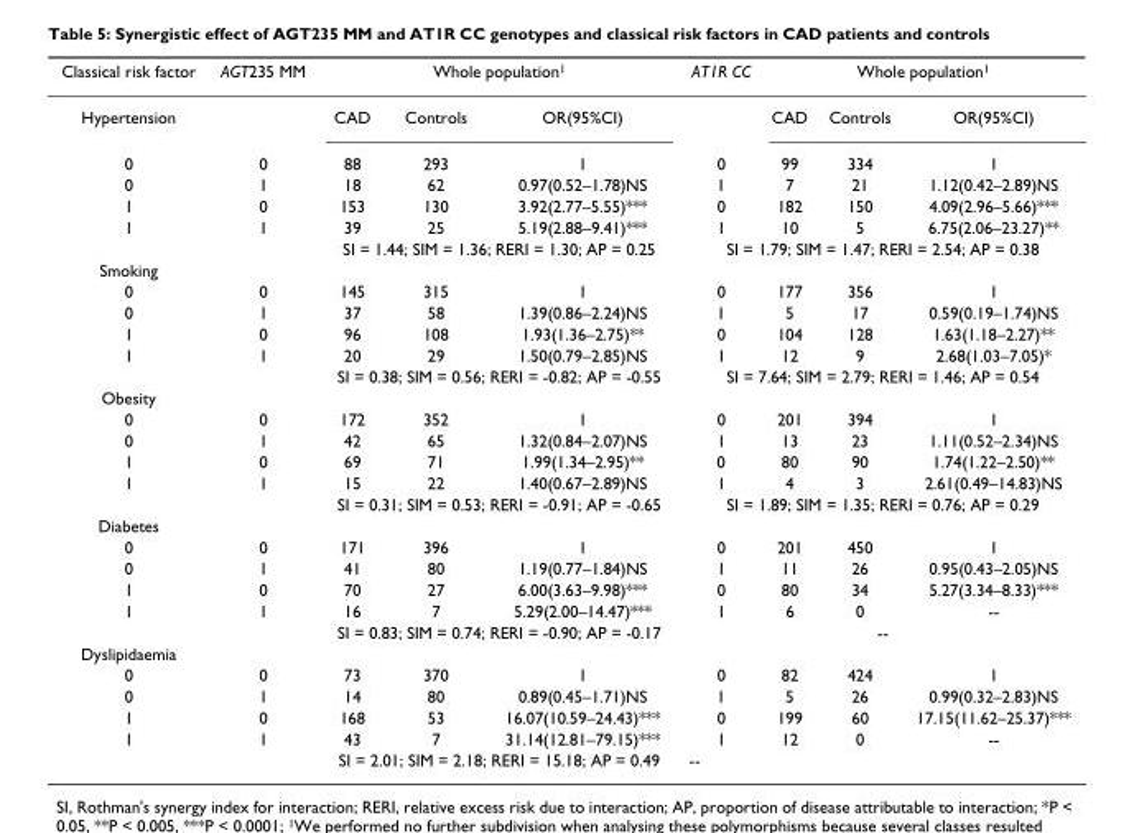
<table><thead><tr><td rowspan="2">Classical risk factor Hypertension</td><td rowspan="2">AGT235 MM</td><td colspan="3">Whole population<sup>1</sup></td><td rowspan="2">AT1R CC</td><td colspan="3">Whole population<sup>1</sup></td></tr><tr><td>CAD</td><td>Controls</td><td>OR(95%CI)</td><td>CAD</td><td>Controls</td><td>OR(95%CI)</td></tr></thead><tbody><tr><td>0</td><td>0</td><td>88</td><td>293</td><td>1</td><td>0</td><td>99</td><td>334</td><td>1</td></tr><tr><td>0</td><td>1</td><td>18</td><td>62</td><td>0.97(0.52–1.78)NS</td><td>1</td><td>7</td><td>21</td><td>1.12(0.42–2.89)NS</td></tr><tr><td>1</td><td>0</td><td>153</td><td>130</td><td>3.92(2.77–5.55)***</td><td>0</td><td>182</td><td>150</td><td>4.09(2.96–5.66)***</td></tr><tr><td rowspan="2">1</td><td>1</td><td>39</td><td>25</td><td>5.19(2.88–9.41)***</td><td>1</td><td>10</td><td>5</td><td>6.75(2.06–23.27)**</td></tr><tr><td></td><td colspan="3">SI = 1.44; SIM = 1.36; RERI = 1.30; AP = 0.25</td><td colspan="4">SI = 1.79; SIM = 1.47; RERI = 2.54; AP = 0.38</td></tr><tr><td colspan="9">Smoking</td></tr><tr><td>0</td><td>0</td><td>145</td><td>315</td><td>1</td><td>0</td><td>177</td><td>356</td><td>1</td></tr><tr><td>0</td><td>1</td><td>37</td><td>58</td><td>1.39(0.86–2.24)NS</td><td>1</td><td>5</td><td>17</td><td>0.59(0.19–1.74)NS</td></tr><tr><td>1</td><td>0</td><td>96</td><td>108</td><td>1.93(1.36–2.75)**</td><td>0</td><td>104</td><td>128</td><td>1.63(1.18–2.27)**</td></tr><tr><td rowspan="2">1</td><td>1</td><td>20</td><td>29</td><td>1.50(0.79–2.85)NS</td><td>1</td><td>12</td><td>9</td><td>2.68(1.03–7.05)*</td></tr><tr><td></td><td colspan="3">SI = 0.38; SIM = 0.56; RERI = -0.82; AP = -0.55</td><td colspan="4">SI = 7.64; SIM = 2.79; RERI = 1.46; AP = 0.54</td></tr><tr><td colspan="9">Obesity</td></tr><tr><td>0</td><td>0</td><td>172</td><td>352</td><td>1</td><td>0</td><td>201</td><td>394</td><td>1</td></tr><tr><td>0</td><td>1</td><td>42</td><td>65</td><td>1.32(0.84–2.07)NS</td><td>1</td><td>13</td><td>23</td><td>1.11(0.52–2.34)NS</td></tr><tr><td>1</td><td>0</td><td>69</td><td>71</td><td>1.99(1.34–2.95)**</td><td>0</td><td>80</td><td>90</td><td>1.74(1.22–2.50)**</td></tr><tr><td rowspan="2">1</td><td>1</td><td>15</td><td>22</td><td>1.40(0.67–2.89)NS</td><td>1</td><td>4</td><td>3</td><td>2.61(0.49–14.83)NS</td></tr><tr><td></td><td colspan="3">SI = 0.31; SIM = 0.53; RERI = -0.91; AP = -0.65</td><td colspan="4">SI = 1.89; SIM = 1.35; RERI = 0.76; AP = 0.29</td></tr><tr><td colspan="9">Diabetes</td></tr><tr><td>0</td><td>0</td><td>171</td><td>396</td><td>1</td><td>0</td><td>201</td><td>450</td><td>1</td></tr><tr><td>0</td><td>1</td><td>41</td><td>80</td><td>1.19(0.77–1.84)NS</td><td>1</td><td>11</td><td>26</td><td>0.95(0.43–2.05)NS</td></tr><tr><td>1</td><td>0</td><td>70</td><td>27</td><td>6.00(3.63–9.98)***</td><td>0</td><td>80</td><td>34</td><td>5.27(3.34–8.33)***</td></tr><tr><td rowspan="2">1</td><td>1</td><td>16</td><td>7</td><td>5.29(2.00–14.47)***</td><td>1</td><td>6</td><td>0</td><td>--</td></tr><tr><td></td><td colspan="3">SI = 0.83; SIM = 0.74; RERI = -0.90; AP = -0.17</td><td colspan="4">--</td></tr><tr><td colspan="9">Dyslipidaemia</td></tr><tr><td>0</td><td>0</td><td>73</td><td>370</td><td>1</td><td>0</td><td>82</td><td>424</td><td>1</td></tr><tr><td>0</td><td>1</td><td>14</td><td>80</td><td>0.89(0.45–1.71)NS</td><td>1</td><td>5</td><td>26</td><td>0.99(0.32–2.83)NS</td></tr><tr><td>1</td><td>0</td><td>168</td><td>53</td><td>16.07(10.59–24.43)***</td><td>0</td><td>199</td><td>60</td><td>17.15(11.62–25.37)***</td></tr><tr><td rowspan="2">1</td><td>1</td><td>43</td><td>7</td><td>31.14(12.81–79.15)***</td><td>1</td><td>12</td><td>0</td><td>--</td></tr><tr><td></td><td colspan="3">SI = 2.01; SIM = 2.18; RERI = 15.18; AP = 0.49</td><td colspan="4">--</td></tr></tbody></table>